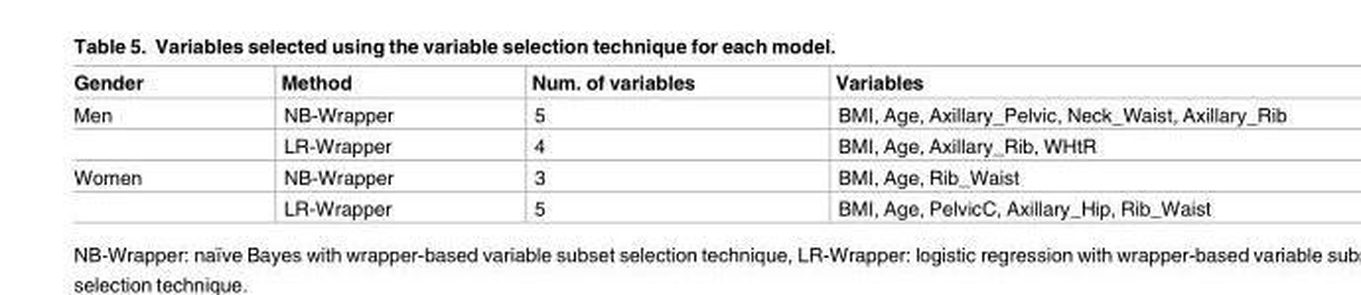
<table><thead><tr><td>Gender</td><td>Method</td><td>Num. of variables</td><td>Variables</td></tr></thead><tbody><tr><td rowspan="2">Men</td><td>NB-Wrapper</td><td>5</td><td>BMI, Age, Axillary_Pelvic, Neck_Waist, Axillary_Rib</td></tr><tr><td>LR-Wrapper</td><td>4</td><td>BMI, Age, Axillary_Rib, WHtR</td></tr><tr><td rowspan="2">Women</td><td>NB-Wrapper</td><td>3</td><td>BMI, Age, Rib_Waist</td></tr><tr><td>LR-Wrapper</td><td>5</td><td>BMI, Age, PelvicC, Axillary_Hip, Rib_Waist</td></tr></tbody></table>